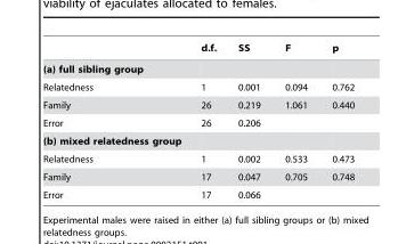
<table><thead><tr><td></td><td>d.f.</td><td>SS</td><td>F</td><td>p</td></tr></thead><tbody><tr><td colspan="5">(a) full sibling group</td></tr><tr><td>Relatedness</td><td>1</td><td>0.001</td><td>0.094</td><td>0.762</td></tr><tr><td>Family</td><td>26</td><td>0.219</td><td>1.061</td><td>0.440</td></tr><tr><td>Error</td><td>26</td><td>0.206</td><td></td><td></td></tr><tr><td colspan="5">(b) mixed relatedness group</td></tr><tr><td>Relatedness</td><td>1</td><td>0.002</td><td>0.533</td><td>0.473</td></tr><tr><td>Family</td><td>17</td><td>0.047</td><td>0.705</td><td>0.748</td></tr><tr><td>Error</td><td>17</td><td>0.066</td><td></td><td></td></tr></tbody></table>